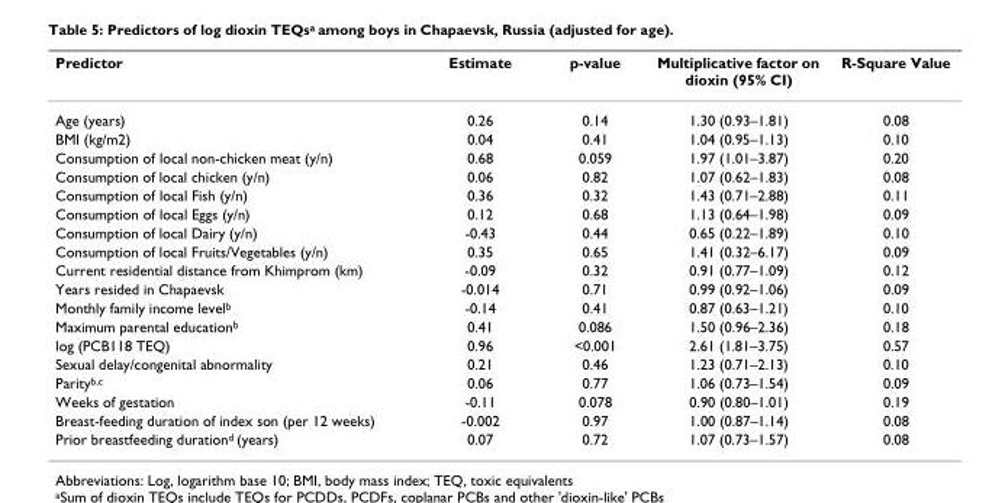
<table><thead><tr><td>Predictor</td><td>Estimate</td><td>p-value</td><td>Multiplicative factor on dioxin (95% CI)</td><td>R-Square Value</td></tr></thead><tbody><tr><td>Age (years)</td><td>0.26</td><td>0.14</td><td>1.30 (0.93–1.81)</td><td>0.08</td></tr><tr><td>BMI (kg/m2)</td><td>0.04</td><td>0.41</td><td>1.04 (0.95–1.13)</td><td>0.10</td></tr><tr><td>Consumption of local non-chicken meat (y/n)</td><td>0.68</td><td>0.059</td><td>1.97 (1.01–3.87)</td><td>0.20</td></tr><tr><td>Consumption of local chicken (y/n)</td><td>0.06</td><td>0.82</td><td>1.07 (0.62–1.83)</td><td>0.08</td></tr><tr><td>Consumption of local Fish (y/n)</td><td>0.36</td><td>0.32</td><td>1.43 (0.71–2.88)</td><td>0.11</td></tr><tr><td>Consumption of local Eggs (y/n)</td><td>0.12</td><td>0.68</td><td>1.13 (0.64–1.98)</td><td>0.09</td></tr><tr><td>Consumption of local Dairy (y/n)</td><td>-0.43</td><td>0.44</td><td>0.65 (0.22–1.89)</td><td>0.10</td></tr><tr><td>Consumption of local Fruits/Vegetables (y/n)</td><td>0.35</td><td>0.65</td><td>1.41 (0.32–6.17)</td><td>0.09</td></tr><tr><td>Current residential distance from Khimprom (km)</td><td>-0.09</td><td>0.32</td><td>0.91 (0.77–1.09)</td><td>0.12</td></tr><tr><td>Years resided in Chapaevsk</td><td>-0.014</td><td>0.71</td><td>0.99 (0.92–1.06)</td><td>0.09</td></tr><tr><td>Monthly family income level<sup>b</sup></td><td>-0.14</td><td>0.41</td><td>0.87 (0.63–1.21)</td><td>0.10</td></tr><tr><td>Maximum parental education<sup>b</sup></td><td>0.41</td><td>0.086</td><td>1.50 (0.96–2.36)</td><td>0.18</td></tr><tr><td>log (PCB118 TEQ)</td><td>0.96</td><td>&lt;0.001</td><td>2.61 (1.81–3.75)</td><td>0.57</td></tr><tr><td>Sexual delay/congenital abnormality</td><td>0.21</td><td>0.46</td><td>1.23 (0.71–2.13)</td><td>0.10</td></tr><tr><td>Parity<sup>b,c</sup></td><td>0.06</td><td>0.77</td><td>1.06 (0.73–1.54)</td><td>0.09</td></tr><tr><td>Weeks of gestation</td><td>-0.11</td><td>0.078</td><td>0.90 (0.80–1.01)</td><td>0.19</td></tr><tr><td>Breast-feeding duration of index son (per 12 weeks)</td><td>-0.002</td><td>0.97</td><td>1.00 (0.87–1.14)</td><td>0.08</td></tr><tr><td>Prior breastfeeding duration<sup>d</sup> (years)</td><td>0.07</td><td>0.72</td><td>1.07 (0.73–1.57)</td><td>0.08</td></tr></tbody></table>